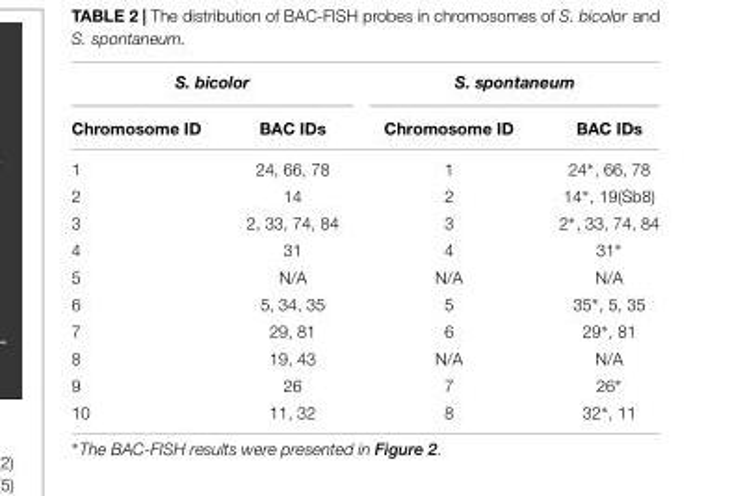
<table><thead><tr><td colspan="2">S. bicolor</td><td colspan="2">S. spontaneum</td></tr><tr><td>Chromosome ID</td><td>BAC IDs</td><td>Chromosome ID</td><td>BAC IDs</td></tr></thead><tbody><tr><td>1</td><td>24, 66, 78</td><td>1</td><td>24∗, 66, 78</td></tr><tr><td>2</td><td>14</td><td>2</td><td>14∗, 19(Sb8)</td></tr><tr><td>3</td><td>2, 33, 74, 84</td><td>3</td><td>2∗, 33, 74, 84</td></tr><tr><td>4</td><td>31</td><td>4</td><td>31∗</td></tr><tr><td>5</td><td>N/A</td><td>N/A</td><td>N/A</td></tr><tr><td>6</td><td>5, 34, 35</td><td>5</td><td>35∗, 5, 35</td></tr><tr><td>7</td><td>29, 81</td><td>6</td><td>29∗, 81</td></tr><tr><td>8</td><td>19, 43</td><td>N/A</td><td>N/A</td></tr><tr><td>9</td><td>26</td><td>7</td><td>26∗</td></tr><tr><td>10</td><td>11, 32</td><td>8</td><td>32∗, 11</td></tr></tbody></table>